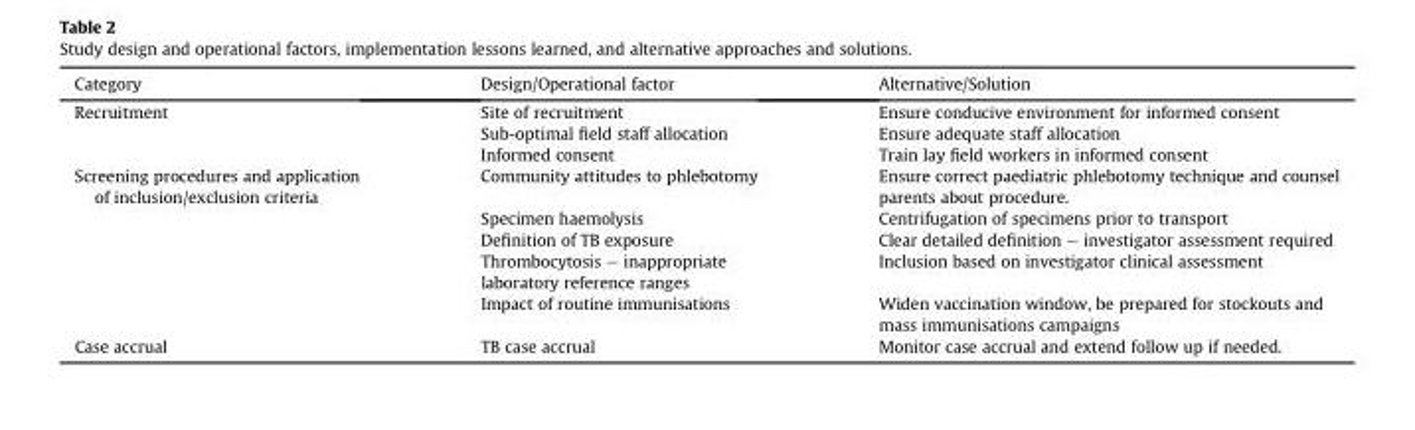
<table><thead><tr><td>Category</td><td>Design/Operational factor</td><td>Alternative/Solution</td></tr></thead><tbody><tr><td rowspan="3">Recruitment</td><td>Site of recruitment</td><td>Ensure conducive environment for informed consent</td></tr><tr><td>Sub-optimal field staff allocation</td><td>Ensure adequate staff allocation</td></tr><tr><td>Informed consent</td><td>Train lay field workers in informed consent</td></tr><tr><td rowspan="5">Screening procedures and application of inclusion/exclusion criteria</td><td>Community attitudes to phlebotomy</td><td>Ensure correct paediatric phlebotomy technique and counsel parents about procedure.</td></tr><tr><td>Specimen haemolysis</td><td>Centrifugation of specimens prior to transport</td></tr><tr><td>Definition of TB exposure</td><td>Clear detailed definition – investigator assessment required</td></tr><tr><td>Thrombocytosis – inappropriate laboratory reference ranges</td><td>Inclusion based on investigator clinical assessment</td></tr><tr><td>Impact of routine immunisations</td><td>Widen vaccination window, be prepared for stockouts and mass immunisations campaigns</td></tr><tr><td>Case accrual</td><td>TB case accrual</td><td>Monitor case accrual and extend follow up if needed.</td></tr></tbody></table>